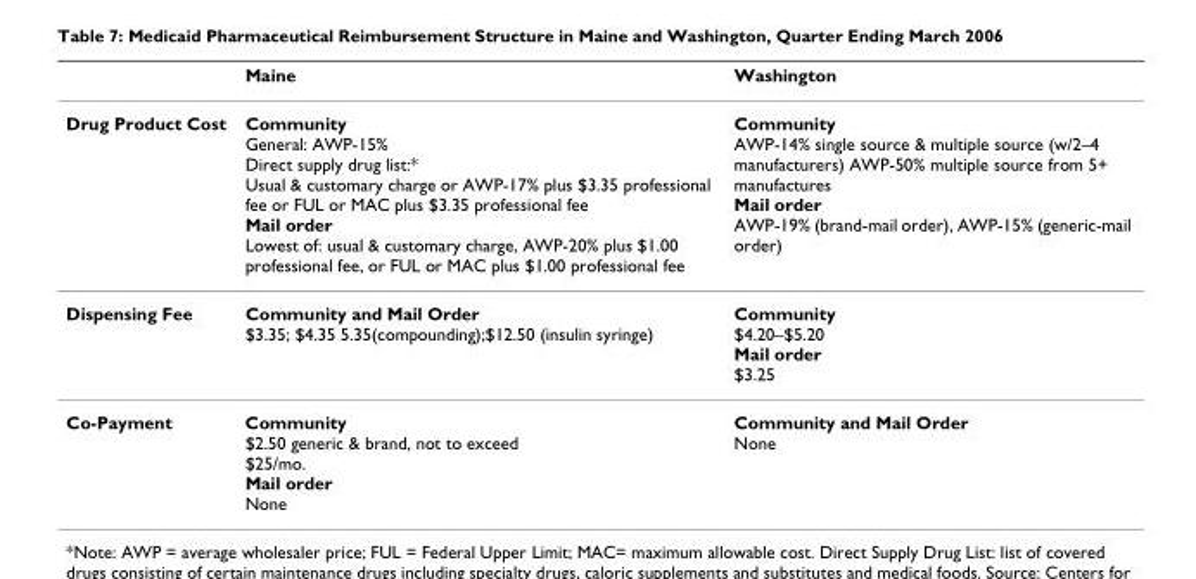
<table><thead><tr><td></td><td>Maine</td><td>Washington</td></tr></thead><tbody><tr><td>Drug Product Cost</td><td>Community General: AWP-15% Direct supply drug list:* Usual &amp; customary charge or AWP-17% plus $3.35 professional fee or FUL or MAC plus $3.35 professional fee Mail order Lowest of: usual &amp; customary charge, AWP-20% plus $1.00 professional fee, or FUL or MAC plus $1.00 professional fee</td><td>Community AWP-14% single source &amp; multiple source (w/2–4 manufacturers) AWP-50% multiple source from 5+ manufactures Mail order AWP-19% (brand-mail order), AWP-15% (generic-mail order)</td></tr><tr><td>Dispensing Fee</td><td>Community and Mail Order $3.35; $4.35 5.35(compounding);$12.50 (insulin syringe)</td><td>Community $4.20–$5.20 Mail order $3.25</td></tr><tr><td>Co-Payment</td><td>Community $2.50 generic &amp; brand, not to exceed $25/mo. Mail order None</td><td>Community and Mail Order None</td></tr></tbody></table>